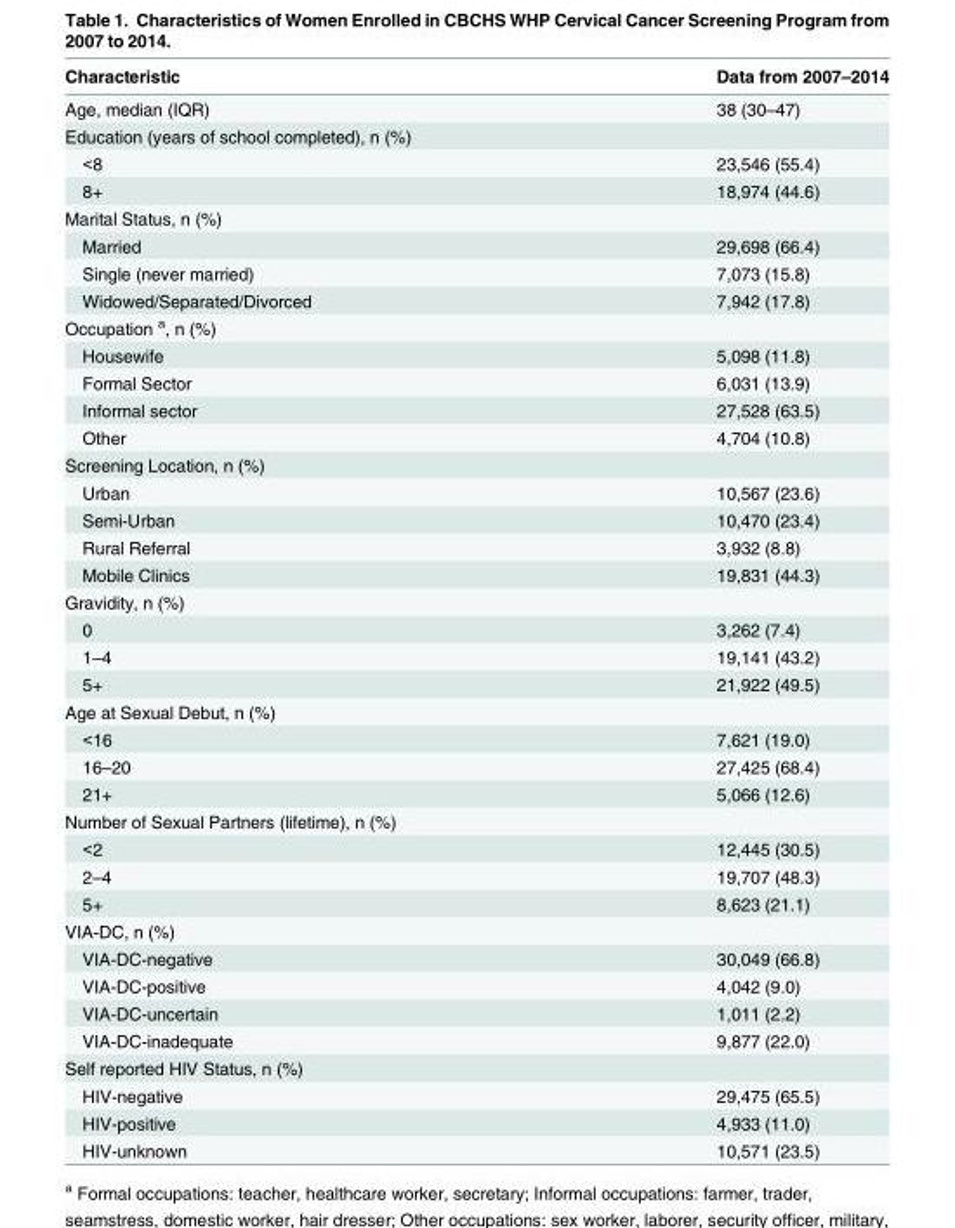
<table><thead><tr><td>Characteristic</td><td>Data from 2007–2014</td></tr></thead><tbody><tr><td>Age, median (IQR)</td><td>38 (30–47)</td></tr><tr><td colspan="2">Education (years of school completed), n (%)</td></tr><tr><td>&lt;8</td><td>23,546 (55.4)</td></tr><tr><td>8+</td><td>18,974 (44.6)</td></tr><tr><td colspan="2">Marital Status, n (%)</td></tr><tr><td>Married</td><td>29,698 (66.4)</td></tr><tr><td>Single (never married)</td><td>7,073 (15.8)</td></tr><tr><td>Widowed/Separated/Divorced</td><td>7,942 (17.8)</td></tr><tr><td colspan="2">Occupation <sup>a</sup>, n (%)</td></tr><tr><td>Housewife</td><td>5,098 (11.8)</td></tr><tr><td>Formal Sector</td><td>6,031 (13.9)</td></tr><tr><td>Informal sector</td><td>27,528 (63.5)</td></tr><tr><td>Other</td><td>4,704 (10.8)</td></tr><tr><td colspan="2">Screening Location, n (%)</td></tr><tr><td>Urban</td><td>10,567 (23.6)</td></tr><tr><td>Semi-Urban</td><td>10,470 (23.4)</td></tr><tr><td>Rural Referral</td><td>3,932 (8.8)</td></tr><tr><td>Mobile Clinics</td><td>19,831 (44.3)</td></tr><tr><td colspan="2">Gravidity, n (%)</td></tr><tr><td>0</td><td>3,262 (7.4)</td></tr><tr><td>1–4</td><td>19,141 (43.2)</td></tr><tr><td>5+</td><td>21,922 (49.5)</td></tr><tr><td colspan="2">Age at Sexual Debut, n (%)</td></tr><tr><td>&lt;16</td><td>7,621 (19.0)</td></tr><tr><td>16–20</td><td>27,425 (68.4)</td></tr><tr><td>21+</td><td>5,066 (12.6)</td></tr><tr><td colspan="2">Number of Sexual Partners (lifetime), n (%)</td></tr><tr><td>&lt;2</td><td>12,445 (30.5)</td></tr><tr><td>2–4</td><td>19,707 (48.3)</td></tr><tr><td>5+</td><td>8,623 (21.1)</td></tr><tr><td colspan="2">VIA-DC, n (%)</td></tr><tr><td>VIA-DC-negative</td><td>30,049 (66.8)</td></tr><tr><td>VIA-DC-positive</td><td>4,042 (9.0)</td></tr><tr><td>VIA-DC-uncertain</td><td>1,011 (2.2)</td></tr><tr><td>VIA-DC-inadequate</td><td>9,877 (22.0)</td></tr><tr><td colspan="2">Self reported HIV Status, n (%)</td></tr><tr><td>HIV-negative</td><td>29,475 (65.5)</td></tr><tr><td>HIV-positive</td><td>4,933 (11.0)</td></tr><tr><td>HIV-unknown</td><td>10,571 (23.5)</td></tr></tbody></table>